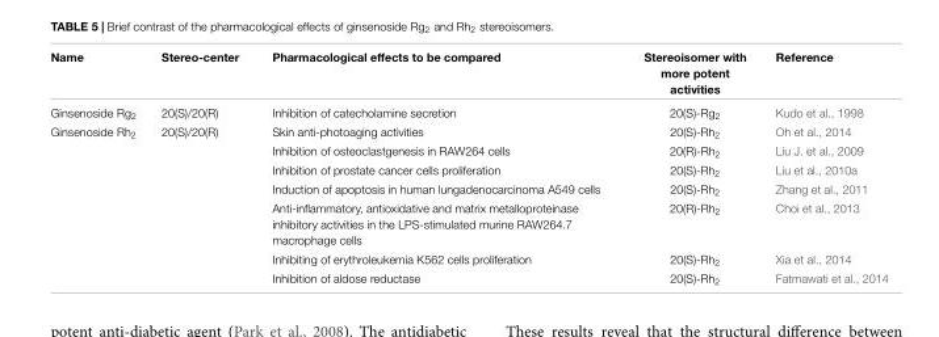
<table><thead><tr><td>Name</td><td>Stereo-center</td><td>Pharmacological effects to be compared</td><td>Stereoisomer with more potent activities</td><td>Reference</td></tr></thead><tbody><tr><td>Ginsenoside Rg<sub>2</sub></td><td>20(S)/20(R)</td><td>Inhibition of catecholamine secretion</td><td>20(S)-Rg<sub>2</sub></td><td>Kudo et al., 1998</td></tr><tr><td rowspan="7">Ginsenoside Rh<sub>2</sub></td><td>20(S)/20(R)</td><td>Skin anti-photoaging activities</td><td>20(S)-Rh<sub>2</sub></td><td>Oh et al., 2014</td></tr><tr><td></td><td>Inhibition of osteoclastgenesis in RAW264 cells</td><td>20(R)-Rh<sub>2</sub></td><td>Liu J. et al., 2009</td></tr><tr><td></td><td>Inhibition of prostate cancer cells proliferation</td><td>20(S)-Rh<sub>2</sub></td><td>Liu et al., 2010a</td></tr><tr><td></td><td>Induction of apoptosis in human lungadenocarcinoma A549 cells</td><td>20(S)-Rh<sub>2</sub></td><td>Zhang et al., 2011</td></tr><tr><td></td><td>Anti-inflammatory, antioxidative and matrix metalloproteinase inhibitory activities in the LPS-stimulated murine RAW264.7 macrophage cells</td><td>20(R)-Rh<sub>2</sub></td><td>Choi et al., 2013</td></tr><tr><td></td><td>Inhibiting of erythroleukemia K562 cells proliferation</td><td>20(S)-Rh<sub>2</sub></td><td>Xia et al., 2014</td></tr><tr><td></td><td>Inhibition of aldose reductase</td><td>20(S)-Rh<sub>2</sub></td><td>Fatmawati et al., 2014</td></tr></tbody></table>